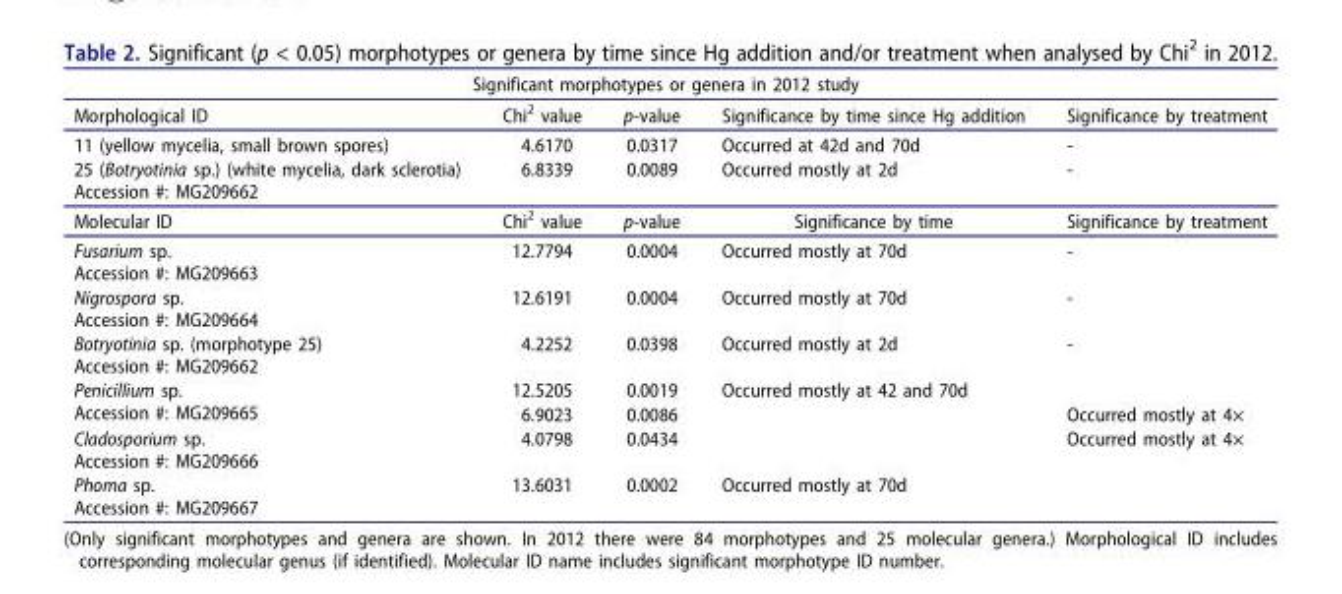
<table><thead><tr><td colspan="5">Significant morphotypes or genera in 2012 study</td></tr><tr><td>Morphological ID</td><td>Chi<sup>2</sup> value</td><td>p-value</td><td>Significance by time since Hg addition</td><td>Significance by treatment</td></tr></thead><tbody><tr><td>11 (yellow mycelia, small brown spores)</td><td>4.6170</td><td>0.0317</td><td>Occurred at 42d and 70d</td><td>-</td></tr><tr><td>25 (Botryotinia sp.) (white mycelia, dark sclerotia) Accession #: MG209662</td><td>6.8339</td><td>0.0089</td><td>Occurred mostly at 2d</td><td>-</td></tr><tr><td>Molecular ID</td><td>Chi<sup>2</sup> value</td><td>p-value</td><td>Significance by time</td><td>Significance by treatment</td></tr><tr><td>Fusarium sp. Accession #: MG209663</td><td>12.7794</td><td>0.0004</td><td>Occurred mostly at 70d</td><td>-</td></tr><tr><td>Nigrospora sp. Accession #: MG209664</td><td>12.6191</td><td>0.0004</td><td>Occurred mostly at 70d</td><td>-</td></tr><tr><td>Botryotinia sp. (morphotype 25) Accession #: MG209662</td><td>4.2252</td><td>0.0398</td><td>Occurred mostly at 2d</td><td>-</td></tr><tr><td rowspan="2">Penicillium sp. Accession #: MG209665</td><td>12.5205</td><td>0.0019</td><td>Occurred mostly at 42 and 70d</td><td></td></tr><tr><td>6.9023</td><td>0.0086</td><td></td><td>Occurred mostly at 4×</td></tr><tr><td>Cladosporium sp. Accession #: MG209666</td><td>4.0798</td><td>0.0434</td><td></td><td>Occurred mostly at 4×</td></tr><tr><td>Phoma sp. Accession #: MG209667</td><td>13.6031</td><td>0.0002</td><td>Occurred mostly at 70d</td><td></td></tr></tbody></table>